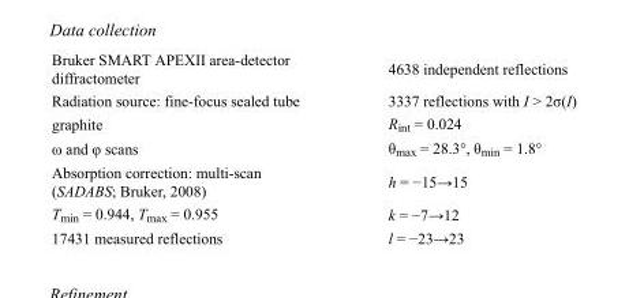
<table><tbody><tr><td>Bruker SMART APEXII area-detector diffractometer</td><td>4638 independent reflections</td></tr><tr><td>Radiation source: fine-focus sealed tube</td><td>3337 reflections with I &gt; 2σ(I)</td></tr><tr><td>graphite</td><td>R<sub>int</sub> = 0.024</td></tr><tr><td>ω and φ scans</td><td>θ<sub>max</sub> = 28.3°, θ<sub>min</sub> = 1.8°</td></tr><tr><td>Absorption correction: multi-scan (SADABS; Bruker, 2008)</td><td>h = −15→15</td></tr><tr><td>T<sub>min</sub> = 0.944, T<sub>max</sub> = 0.955</td><td>k = −7→12</td></tr><tr><td>17431 measured reflections</td><td>l = −23→23</td></tr></tbody></table>